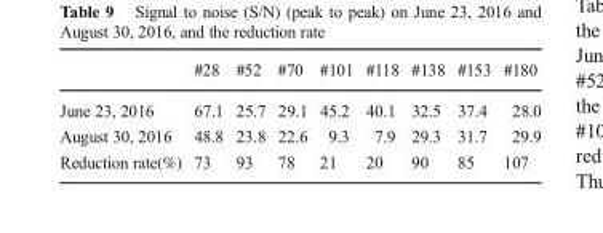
<table><thead><tr><td></td><td>#28</td><td>#52</td><td>#70</td><td>#101</td><td>#118</td><td>#138</td><td>#153</td><td>#180</td></tr></thead><tbody><tr><td>June 23, 2016</td><td>67.1</td><td>25.7</td><td>29.1</td><td>45.2</td><td>40.1</td><td>32.5</td><td>37.4</td><td>28.0</td></tr><tr><td>August 30, 2016</td><td>48.8</td><td>23.8</td><td>22.6</td><td>9.3</td><td>7.9</td><td>29.3</td><td>31.7</td><td>29.9</td></tr><tr><td>Reduction rate(%)</td><td>73</td><td>93</td><td>78</td><td>21</td><td>20</td><td>90</td><td>85</td><td>107</td></tr></tbody></table>